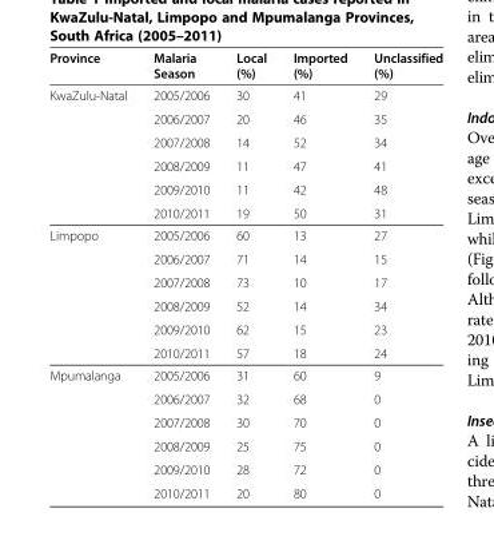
<table><thead><tr><td>Province</td><td>Malaria Season</td><td>Local (%)</td><td>Imported (%)</td><td>Unclassified (%)</td></tr></thead><tbody><tr><td rowspan="6">KwaZulu-Natal</td><td>2005/2006</td><td>30</td><td>41</td><td>29</td></tr><tr><td>2006/2007</td><td>20</td><td>46</td><td>35</td></tr><tr><td>2007/2008</td><td>14</td><td>52</td><td>34</td></tr><tr><td>2008/2009</td><td>11</td><td>47</td><td>41</td></tr><tr><td>2009/2010</td><td>11</td><td>42</td><td>48</td></tr><tr><td>2010/2011</td><td>19</td><td>50</td><td>31</td></tr><tr><td rowspan="6">Limpopo</td><td>2005/2006</td><td>60</td><td>13</td><td>27</td></tr><tr><td>2006/2007</td><td>71</td><td>14</td><td>15</td></tr><tr><td>2007/2008</td><td>73</td><td>10</td><td>17</td></tr><tr><td>2008/2009</td><td>52</td><td>14</td><td>34</td></tr><tr><td>2009/2010</td><td>62</td><td>15</td><td>23</td></tr><tr><td>2010/2011</td><td>57</td><td>18</td><td>24</td></tr><tr><td rowspan="6">Mpumalanga</td><td>2005/2006</td><td>31</td><td>60</td><td>9</td></tr><tr><td>2006/2007</td><td>32</td><td>68</td><td>0</td></tr><tr><td>2007/2008</td><td>30</td><td>70</td><td>0</td></tr><tr><td>2008/2009</td><td>25</td><td>75</td><td>0</td></tr><tr><td>2009/2010</td><td>28</td><td>72</td><td>0</td></tr><tr><td>2010/2011</td><td>20</td><td>80</td><td>0</td></tr></tbody></table>